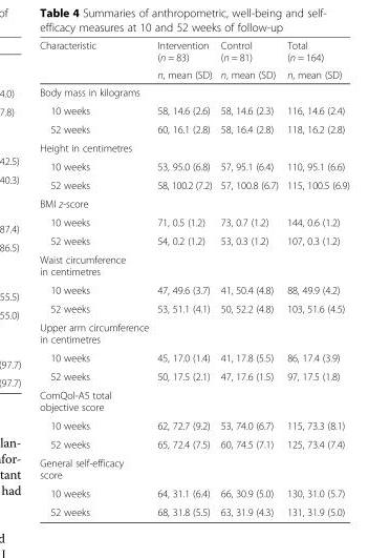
<table><thead><tr><td rowspan="2">Characteristic</td><td rowspan="2">Intervention (n = 83) n, mean (SD)</td><td rowspan="2">Control (n = 81) n, mean (SD)</td><td rowspan="2">Total (n = 164) n, mean (SD)</td></tr><tr></tr></thead><tbody><tr><td colspan="4">Body mass in kilograms</td></tr><tr><td>10 weeks</td><td>58, 14.6 (2.6)</td><td>58, 14.6 (2.3)</td><td>116, 14.6 (2.4)</td></tr><tr><td>52 weeks</td><td>60, 16.1 (2.8)</td><td>58, 16.4 (2.8)</td><td>118, 16.2 (2.8)</td></tr><tr><td colspan="4">Height in centimetres</td></tr><tr><td>10 weeks</td><td>53, 95.0 (6.8)</td><td>57, 95.1 (6.4)</td><td>110, 95.1 (6.6)</td></tr><tr><td>52 weeks</td><td>58, 100.2 (7.2)</td><td>57, 100.8 (6.7)</td><td>115, 100.5 (6.9)</td></tr><tr><td colspan="4">BMI z-score</td></tr><tr><td>10 weeks</td><td>71, 0.5 (1.2)</td><td>73, 0.7 (1.2)</td><td>144, 0.6 (1.2)</td></tr><tr><td>52 weeks</td><td>54, 0.2 (1.2)</td><td>53, 0.3 (1.2)</td><td>107, 0.3 (1.2)</td></tr><tr><td colspan="4">Waist circumference in centimetres</td></tr><tr><td>10 weeks</td><td>47, 49.6 (3.7)</td><td>41, 50.4 (4.8)</td><td>88, 49.9 (4.2)</td></tr><tr><td>52 weeks</td><td>53, 51.1 (4.1)</td><td>50, 52.2 (4.8)</td><td>103, 51.6 (4.5)</td></tr><tr><td colspan="4">Upper arm circumference in centimetres</td></tr><tr><td>10 weeks</td><td>45, 17.0 (1.4)</td><td>41, 17.8 (5.5)</td><td>86, 17.4 (3.9)</td></tr><tr><td>52 weeks</td><td>50, 17.5 (2.1)</td><td>47, 17.6 (1.5)</td><td>97, 17.5 (1.8)</td></tr><tr><td colspan="4">ComQol-A5 total objective score</td></tr><tr><td>10 weeks</td><td>62, 72.7 (9.2)</td><td>53, 74.0 (6.7)</td><td>115, 73.3 (8.1)</td></tr><tr><td>52 weeks</td><td>65, 72.4 (7.5)</td><td>60, 74.5 (7.1)</td><td>125, 73.4 (7.4)</td></tr><tr><td colspan="4">General self-efficacy score</td></tr><tr><td>10 weeks</td><td>64, 31.1 (6.4)</td><td>66, 30.9 (5.0)</td><td>130, 31.0 (5.7)</td></tr><tr><td>52 weeks</td><td>68, 31.8 (5.5)</td><td>63, 31.9 (4.3)</td><td>131, 31.9 (5.0)</td></tr></tbody></table>